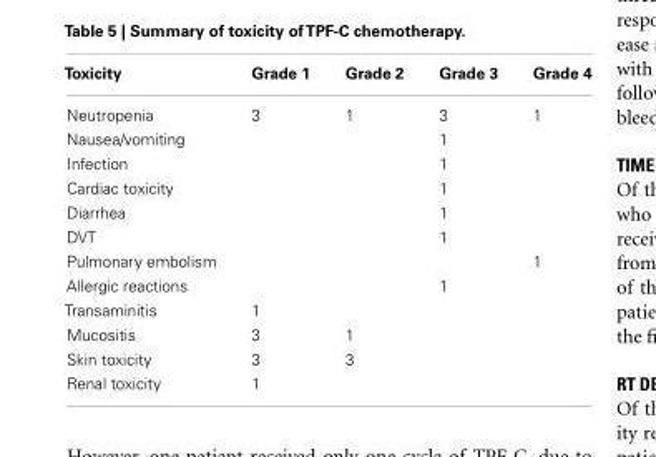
<table><thead><tr><td>Toxicity</td><td>Grade 1</td><td>Grade 2</td><td>Grade 3</td><td>Grade 4</td></tr></thead><tbody><tr><td>Neutropenia</td><td>3</td><td>1</td><td>3</td><td>1</td></tr><tr><td>Nausea/vomiting</td><td></td><td></td><td>1</td><td></td></tr><tr><td>Infection</td><td></td><td></td><td>1</td><td></td></tr><tr><td>Cardiac toxicity</td><td></td><td></td><td>1</td><td></td></tr><tr><td>Diarrhea</td><td></td><td></td><td>1</td><td></td></tr><tr><td>DVT</td><td></td><td></td><td>1</td><td></td></tr><tr><td>Pulmonary embolism</td><td></td><td></td><td></td><td>1</td></tr><tr><td>Allergic reactions</td><td></td><td></td><td>1</td><td></td></tr><tr><td>Transaminitis</td><td>1</td><td></td><td></td><td></td></tr><tr><td>Mucositis</td><td>3</td><td>1</td><td></td><td></td></tr><tr><td>Skin toxicity</td><td>3</td><td>3</td><td></td><td></td></tr><tr><td>Renal toxicity</td><td>1</td><td></td><td></td><td></td></tr></tbody></table>